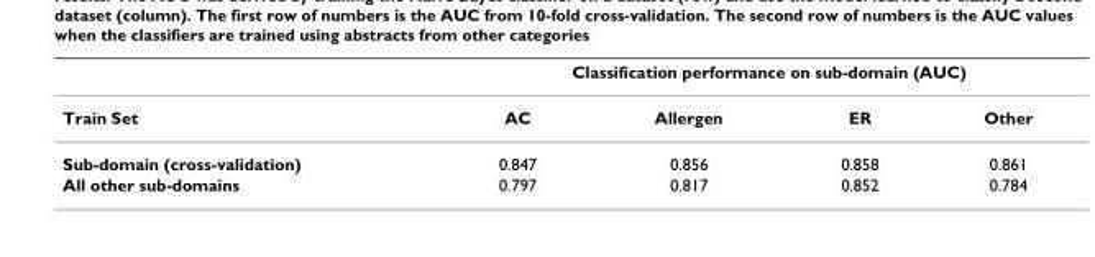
<table><thead><tr><td rowspan="2">Train Set</td><td colspan="4">Classification performance on sub-domain (AUC)</td></tr><tr><td>AC</td><td>Allergen</td><td>ER</td><td>Other</td></tr></thead><tbody><tr><td>Sub-domain (cross-validation)</td><td>0.847</td><td>0.856</td><td>0.858</td><td>0.861</td></tr><tr><td>All other sub-domains</td><td>0.797</td><td>0.817</td><td>0.852</td><td>0.784</td></tr></tbody></table>